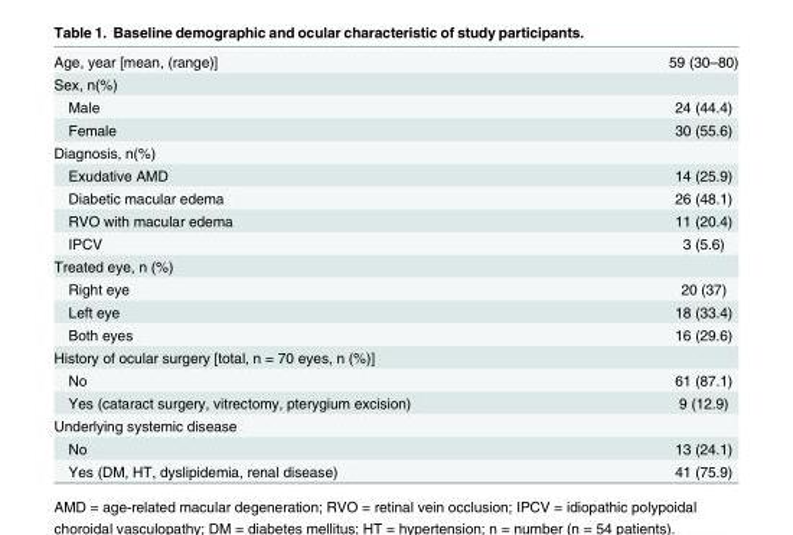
<table><tbody><tr><td>Age, year [mean, (range)]</td><td>59 (30–80)</td></tr><tr><td colspan="2">Sex, n(%)</td></tr><tr><td>Male</td><td>24 (44.4)</td></tr><tr><td>Female</td><td>30 (55.6)</td></tr><tr><td colspan="2">Diagnosis, n(%)</td></tr><tr><td>Exudative AMD</td><td>14 (25.9)</td></tr><tr><td>Diabetic macular edema</td><td>26 (48.1)</td></tr><tr><td>RVO with macular edema</td><td>11 (20.4)</td></tr><tr><td>IPCV</td><td>3 (5.6)</td></tr><tr><td colspan="2">Treated eye, n (%)</td></tr><tr><td>Right eye</td><td>20 (37)</td></tr><tr><td>Left eye</td><td>18 (33.4)</td></tr><tr><td>Both eyes</td><td>16 (29.6)</td></tr><tr><td colspan="2">History of ocular surgery [total, n = 70 eyes, n (%)]</td></tr><tr><td>No</td><td>61 (87.1)</td></tr><tr><td>Yes (cataract surgery, vitrectomy, pterygium excision)</td><td>9 (12.9)</td></tr><tr><td colspan="2">Underlying systemic disease</td></tr><tr><td>No</td><td>13 (24.1)</td></tr><tr><td>Yes (DM, HT, dyslipidemia, renal disease)</td><td>41 (75.9)</td></tr></tbody></table>